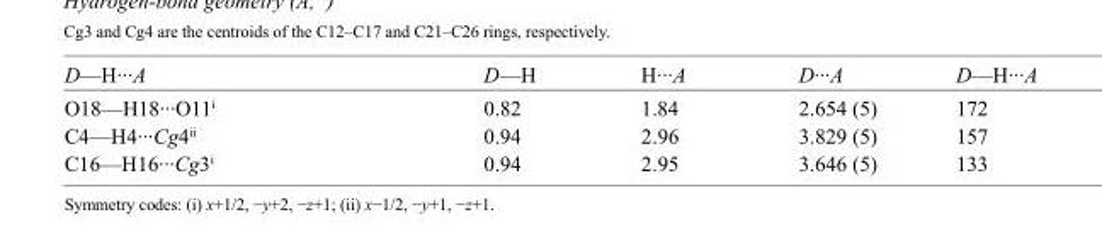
<table><tbody><tr><td>D—H···A</td><td>D—H</td><td>H···A</td><td>D···A</td><td>D—H···A</td></tr><tr><td>O18—H18···O11<sup>i</sup></td><td>0.82</td><td>1.84</td><td>2.654 (5)</td><td>172</td></tr><tr><td>C4—H4···Cg4<sup>ii</sup></td><td>0.94</td><td>2.96</td><td>3.829 (5)</td><td>157</td></tr><tr><td>C16—H16···Cg3<sup>i</sup></td><td>0.94</td><td>2.95</td><td>3.646 (5)</td><td>133</td></tr></tbody></table>